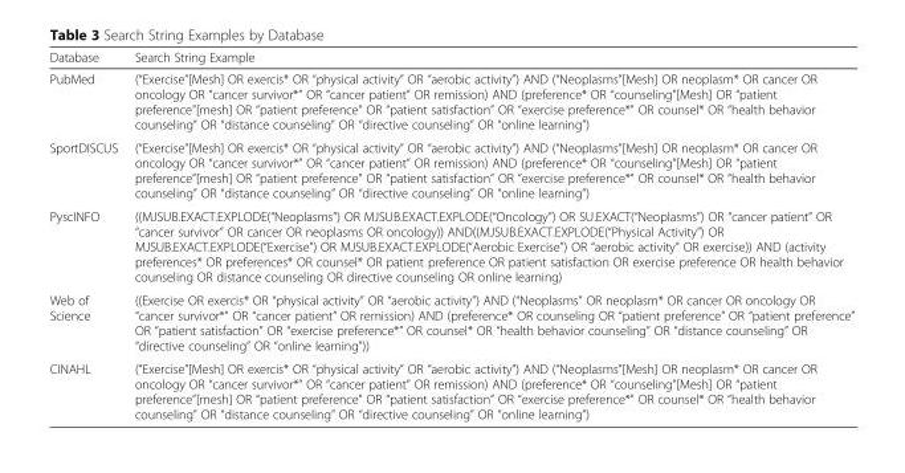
<table><thead><tr><td>Database</td><td>Search String Example</td></tr></thead><tbody><tr><td>PubMed</td><td>(“Exercise”[Mesh] OR exercis* OR “physical activity” OR “aerobic activity”) AND (“Neoplasms”[Mesh] OR neoplasm* OR cancer OR oncology OR “cancer survivor*” OR “cancer patient” OR remission) AND (preference* OR “counseling”[Mesh] OR “patient preference”[mesh] OR “patient preference” OR “patient satisfaction” OR “exercise preference*” OR counsel* OR “health behavior counseling” OR “distance counseling” OR “directive counseling” OR “online learning”)</td></tr><tr><td>SportDISCUS</td><td>(“Exercise”[Mesh] OR exercis* OR “physical activity” OR “aerobic activity”) AND (“Neoplasms”[Mesh] OR neoplasm* OR cancer OR oncology OR “cancer survivor*” OR “cancer patient” OR remission) AND (preference* OR “counseling”[Mesh] OR “patient preference”[mesh] OR “patient preference” OR “patient satisfaction” OR “exercise preference*” OR counsel* OR “health behavior counseling” OR “distance counseling” OR “directive counseling” OR “online learning”)</td></tr><tr><td>PyscINFO</td><td>((MJSUB.EXACT.EXPLODE(“Neoplasms”) OR MJSUB.EXACT.EXPLODE(“Oncology”) OR SU.EXACT(“Neoplasms”) OR “cancer patient” OR “cancer survivor” OR cancer OR neoplasms OR oncology)) AND((MJSUB.EXACT.EXPLODE(“Physical Activity”) OR MJSUB.EXACT.EXPLODE(“Exercise”) OR MJSUB.EXACT.EXPLODE(“Aerobic Exercise”) OR “aerobic activity” OR exercise)) AND (activity preferences* OR preferences* OR counsel* OR patient preference OR patient satisfaction OR exercise preference OR health behavior counseling OR distance counseling OR directive counseling OR online learning)</td></tr><tr><td>Web of Science</td><td>((Exercise OR exercis* OR “physical activity” OR “aerobic activity”) AND (“Neoplasms” OR neoplasm* OR cancer OR oncology OR “cancer survivor*” OR “cancer patient” OR remission) AND (preference* OR counseling OR “patient preference” OR “patient preference” OR “patient satisfaction” OR “exercise preference*” OR counsel* OR “health behavior counseling” OR “distance counseling” OR “directive counseling” OR “online learning”))</td></tr><tr><td>CINAHL</td><td>(“Exercise”[Mesh] OR exercis* OR “physical activity” OR “aerobic activity”) AND (“Neoplasms”[Mesh] OR neoplasm* OR cancer OR oncology OR “cancer survivor*” OR “cancer patient” OR remission) AND (preference* OR “counseling”[Mesh] OR “patient preference”[mesh] OR “patient preference” OR “patient satisfaction” OR “exercise preference*” OR counsel* OR “health behavior counseling” OR “distance counseling” OR “directive counseling” OR “online learning”)</td></tr></tbody></table>